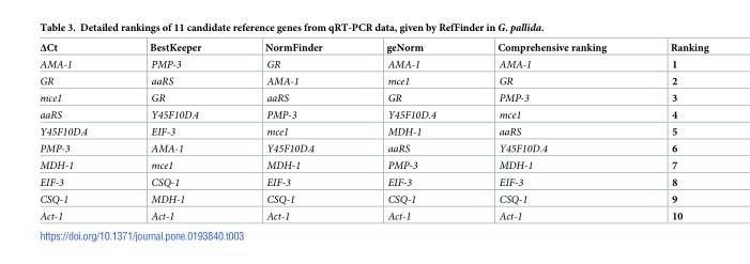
<table><thead><tr><td>ΔCt</td><td>BestKeeper</td><td>NormFinder</td><td>geNorm</td><td>Comprehensive ranking</td><td>Ranking</td></tr></thead><tbody><tr><td>AMA-1</td><td>PMP-3</td><td>GR</td><td>AMA-1</td><td>AMA-1</td><td>1</td></tr><tr><td>GR</td><td>aaRS</td><td>AMA-1</td><td>mce1</td><td>GR</td><td>2</td></tr><tr><td>mce1</td><td>GR</td><td>aaRS</td><td>GR</td><td>PMP-3</td><td>3</td></tr><tr><td>aaRS</td><td>Y45F10D.4</td><td>PMP-3</td><td>Y45F10D.4</td><td>mce1</td><td>4</td></tr><tr><td>Y45F10D.4</td><td>EIF-3</td><td>mce1</td><td>MDH-1</td><td>aaRS</td><td>5</td></tr><tr><td>PMP-3</td><td>AMA-1</td><td>Y45F10D.4</td><td>aaRS</td><td>Y45F10D.4</td><td>6</td></tr><tr><td>MDH-1</td><td>mce1</td><td>MDH-1</td><td>PMP-3</td><td>MDH-1</td><td>7</td></tr><tr><td>EIF-3</td><td>CSQ-1</td><td>EIF-3</td><td>EIF-3</td><td>EIF-3</td><td>8</td></tr><tr><td>CSQ-1</td><td>MDH-1</td><td>CSQ-1</td><td>CSQ-1</td><td>CSQ-1</td><td>9</td></tr><tr><td>Act-1</td><td>Act-1</td><td>Act-1</td><td>Act-1</td><td>Act-1</td><td>10</td></tr></tbody></table>